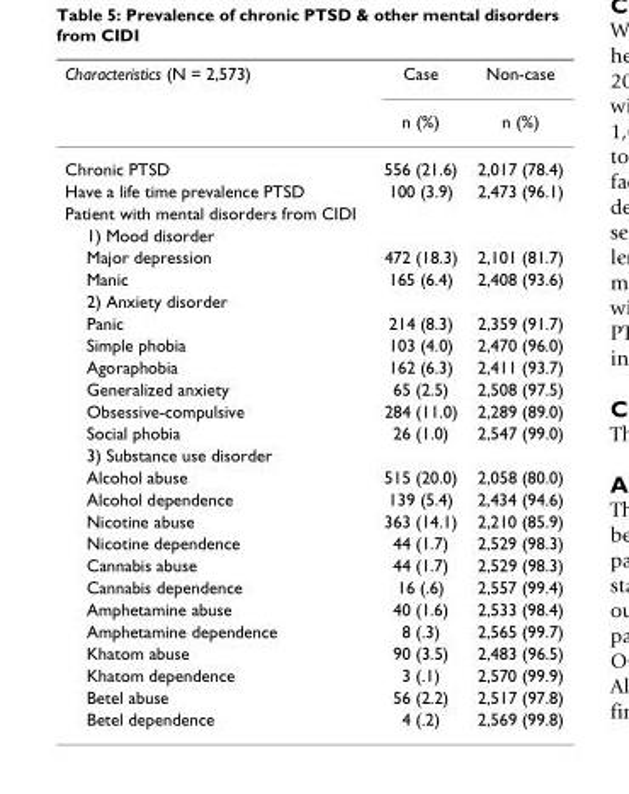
<table><thead><tr><td rowspan="2">Characteristics (N = 2,573)</td><td rowspan="2">Case n (%)</td><td rowspan="2">Non-case n (%)</td></tr><tr></tr></thead><tbody><tr><td>Chronic PTSD</td><td>556 (21.6)</td><td>2,017 (78.4)</td></tr><tr><td>Have a life time prevalence PTSD</td><td>100 (3.9)</td><td>2,473 (96.1)</td></tr><tr><td colspan="3">Patient with mental disorders from CIDI</td></tr><tr><td colspan="3">1) Mood disorder</td></tr><tr><td>Major depression</td><td>472 (18.3)</td><td>2,101 (81.7)</td></tr><tr><td>Manic</td><td>165 (6.4)</td><td>2,408 (93.6)</td></tr><tr><td colspan="3">2) Anxiety disorder</td></tr><tr><td>Panic</td><td>214 (8.3)</td><td>2,359 (91.7)</td></tr><tr><td>Simple phobia</td><td>103 (4.0)</td><td>2,470 (96.0)</td></tr><tr><td>Agoraphobia</td><td>162 (6.3)</td><td>2,411 (93.7)</td></tr><tr><td>Generalized anxiety</td><td>65 (2.5)</td><td>2,508 (97.5)</td></tr><tr><td>Obsessive-compulsive</td><td>284 (11.0)</td><td>2,289 (89.0)</td></tr><tr><td>Social phobia</td><td>26 (1.0)</td><td>2,547 (99.0)</td></tr><tr><td colspan="3">3) Substance use disorder</td></tr><tr><td>Alcohol abuse</td><td>515 (20.0)</td><td>2,058 (80.0)</td></tr><tr><td>Alcohol dependence</td><td>139 (5.4)</td><td>2,434 (94.6)</td></tr><tr><td>Nicotine abuse</td><td>363 (14.1)</td><td>2,210 (85.9)</td></tr><tr><td>Nicotine dependence</td><td>44 (1.7)</td><td>2,529 (98.3)</td></tr><tr><td>Cannabis abuse</td><td>44 (1.7)</td><td>2,529 (98.3)</td></tr><tr><td>Cannabis dependence</td><td>16 (.6)</td><td>2,557 (99.4)</td></tr><tr><td>Amphetamine abuse</td><td>40 (1.6)</td><td>2,533 (98.4)</td></tr><tr><td>Amphetamine dependence</td><td>8 (.3)</td><td>2,565 (99.7)</td></tr><tr><td>Khatom abuse</td><td>90 (3.5)</td><td>2,483 (96.5)</td></tr><tr><td>Khatom dependence</td><td>3 (.1)</td><td>2,570 (99.9)</td></tr><tr><td>Betel abuse</td><td>56 (2.2)</td><td>2,517 (97.8)</td></tr><tr><td>Betel dependence</td><td>4 (.2)</td><td>2,569 (99.8)</td></tr></tbody></table>